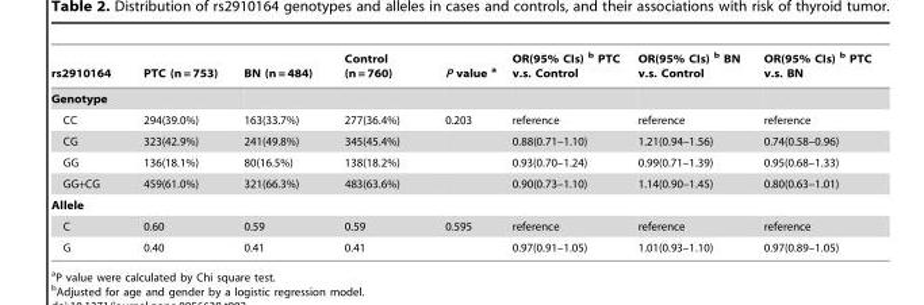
<table><thead><tr><td>rs2910164</td><td>PTC (n = 753)</td><td>BN (n = 484)</td><td>Control (n = 760)</td><td>P value a</td><td>OR(95% CIs) b PTC v.s. Control</td><td>OR(95% CIs) b BN v.s. Control</td><td>OR(95% CIs) b PTC v.s. BN</td></tr></thead><tbody><tr><td colspan="8">Genotype</td></tr><tr><td>CC</td><td>294(39.0%)</td><td>163(33.7%)</td><td>277(36.4%)</td><td>0.203</td><td>reference</td><td>reference</td><td>reference</td></tr><tr><td>CG</td><td>323(42.9%)</td><td>241(49.8%)</td><td>345(45.4%)</td><td></td><td>0.88(0.71–1.10)</td><td>1.21(0.94–1.56)</td><td>0.74(0.58–0.96)</td></tr><tr><td>GG</td><td>136(18.1%)</td><td>80(16.5%)</td><td>138(18.2%)</td><td></td><td>0.93(0.70–1.24)</td><td>0.99(0.71–1.39)</td><td>0.95(0.68–1.33)</td></tr><tr><td>GG+CG</td><td>459(61.0%)</td><td>321(66.3%)</td><td>483(63.6%)</td><td></td><td>0.90(0.73–1.10)</td><td>1.14(0.90–1.45)</td><td>0.80(0.63–1.01)</td></tr><tr><td colspan="8">Allele</td></tr><tr><td>C</td><td>0.60</td><td>0.59</td><td>0.59</td><td>0.595</td><td>reference</td><td>reference</td><td>reference</td></tr><tr><td>G</td><td>0.40</td><td>0.41</td><td>0.41</td><td></td><td>0.97(0.91–1.05)</td><td>1.01(0.93–1.10)</td><td>0.97(0.89–1.05)</td></tr></tbody></table>